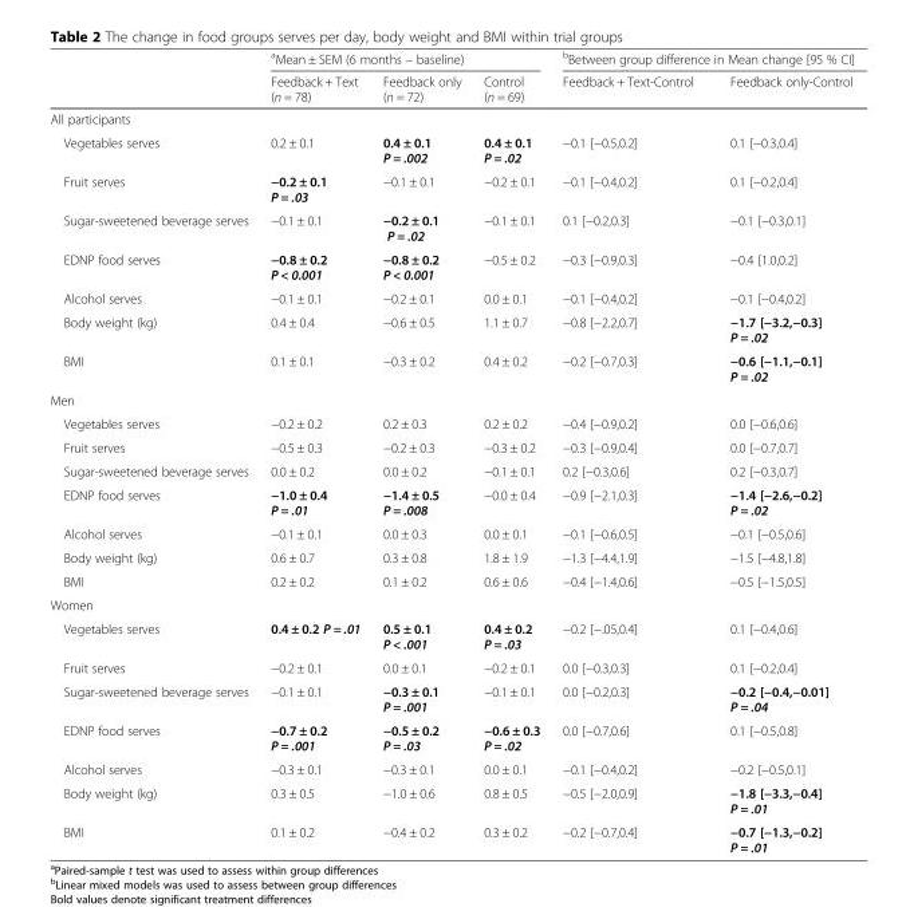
<table><thead><tr><td rowspan="2"></td><td colspan="3"><sup>a</sup>Mean ± SEM (6 months – baseline)</td><td colspan="2"><sup>b</sup>Between group difference in Mean change [95 % CI]</td></tr><tr><td>Feedback + Text (n = 78)</td><td>Feedback only (n = 72)</td><td>Control (n = 69)</td><td>Feedback + Text-Control</td><td>Feedback only-Control</td></tr></thead><tbody><tr><td colspan="6">All participants</td></tr><tr><td>Vegetables serves</td><td>0.2 ± 0.1</td><td>0.4 ± 0.1 P = .002</td><td>0.4 ± 0.1 P = .02</td><td>−0.1 [−0.5,0.2]</td><td>0.1 [−0.3,0.4]</td></tr><tr><td>Fruit serves</td><td>−0.2 ± 0.1 P = .03</td><td>−0.1 ± 0.1</td><td>−0.2 ± 0.1</td><td>−0.1 [−0.4,0.2]</td><td>0.1 [−0.2,0.4]</td></tr><tr><td>Sugar-sweetened beverage serves</td><td>−0.1 ± 0.1</td><td>−0.2 ± 0.1 P = .02</td><td>−0.1 ± 0.1</td><td>0.1 [−0.2,0.3]</td><td>−0.1 [−0.3,0.1]</td></tr><tr><td>EDNP food serves</td><td>−0.8 ± 0.2 P &lt; 0.001</td><td>−0.8 ± 0.2 P &lt; 0.001</td><td>−0.5 ± 0.2</td><td>−0.3 [−0.9,0.3]</td><td>−0.4 [1.0,0.2]</td></tr><tr><td>Alcohol serves</td><td>−0.1 ± 0.1</td><td>−0.2 ± 0.1</td><td>0.0 ± 0.1</td><td>−0.1 [−0.4,0.2]</td><td>−0.1 [−0.4,0.2]</td></tr><tr><td>Body weight (kg)</td><td>0.4 ± 0.4</td><td>−0.6 ± 0.5</td><td>1.1 ± 0.7</td><td>−0.8 [−2.2,0.7]</td><td>−1.7 [−3.2,−0.3] P = .02</td></tr><tr><td>BMI</td><td>0.1 ± 0.1</td><td>−0.3 ± 0.2</td><td>0.4 ± 0.2</td><td>−0.2 [−0.7,0.3]</td><td>−0.6 [−1.1,−0.1] P = .02</td></tr><tr><td colspan="6">Men</td></tr><tr><td>Vegetables serves</td><td>−0.2 ± 0.2</td><td>0.2 ± 0.3</td><td>0.2 ± 0.2</td><td>−0.4 [−0.9,0.2]</td><td>0.0 [−0.6,0.6]</td></tr><tr><td>Fruit serves</td><td>−0.5 ± 0.3</td><td>−0.2 ± 0.3</td><td>−0.3 ± 0.2</td><td>−0.3 [−0.9,0.4]</td><td>0.0 [−0.7,0.7]</td></tr><tr><td>Sugar-sweetened beverage serves</td><td>0.0 ± 0.2</td><td>0.0 ± 0.2</td><td>−0.1 ± 0.1</td><td>0.2 [−0.3,0.6]</td><td>0.2 [−0.3,0.7]</td></tr><tr><td>EDNP food serves</td><td>−1.0 ± 0.4 P = .01</td><td>−1.4 ± 0.5 P = .008</td><td>−0.0 ± 0.4</td><td>−0.9 [−2.1,0.3]</td><td>−1.4 [−2.6,−0.2] P = .02</td></tr><tr><td>Alcohol serves</td><td>−0.1 ± 0.1</td><td>0.0 ± 0.3</td><td>0.0 ± 0.1</td><td>−0.1 [−0.6,0.5]</td><td>−0.1 [−0.5,0.6]</td></tr><tr><td>Body weight (kg)</td><td>0.6 ± 0.7</td><td>0.3 ± 0.8</td><td>1.8 ± 1.9</td><td>−1.3 [−4.4,1.9]</td><td>−1.5 [−4.8,1.8]</td></tr><tr><td>BMI</td><td>0.2 ± 0.2</td><td>0.1 ± 0.2</td><td>0.6 ± 0.6</td><td>−0.4 [−1.4,0.6]</td><td>−0.5 [−1.5,0.5]</td></tr><tr><td colspan="6">Women</td></tr><tr><td>Vegetables serves</td><td>0.4 ± 0.2 P = .01</td><td>0.5 ± 0.1 P &lt; .001</td><td>0.4 ± 0.2 P = .03</td><td>−0.2 [−.05,0.4]</td><td>0.1 [−0.4,0.6]</td></tr><tr><td>Fruit serves</td><td>−0.2 ± 0.1</td><td>0.0 ± 0.1</td><td>−0.2 ± 0.1</td><td>0.0 [−0.3,0.3]</td><td>0.1 [−0.2,0.4]</td></tr><tr><td>Sugar-sweetened beverage serves</td><td>−0.1 ± 0.1</td><td>−0.3 ± 0.1 P = .001</td><td>−0.1 ± 0.1</td><td>0.0 [−0.2,0.3]</td><td>−0.2 [−0.4,−0.01] P = .04</td></tr><tr><td>EDNP food serves</td><td>−0.7 ± 0.2 P = .001</td><td>−0.5 ± 0.2 P = .03</td><td>−0.6 ± 0.3 P = .02</td><td>0.0 [−0.7,0.6]</td><td>0.1 [−0.5,0.8]</td></tr><tr><td>Alcohol serves</td><td>−0.3 ± 0.1</td><td>−0.3 ± 0.1</td><td>0.0 ± 0.1</td><td>−0.1 [−0.4,0.2]</td><td>−0.2 [−0.5,0.1]</td></tr><tr><td>Body weight (kg)</td><td>0.3 ± 0.5</td><td>−1.0 ± 0.6</td><td>0.8 ± 0.5</td><td>−0.5 [−2.0,0.9]</td><td>−1.8 [−3.3,−0.4] P = .01</td></tr><tr><td>BMI</td><td>0.1 ± 0.2</td><td>−0.4 ± 0.2</td><td>0.3 ± 0.2</td><td>−0.2 [−0.7,0.4]</td><td>−0.7 [−1.3,−0.2] P = .01</td></tr></tbody></table>